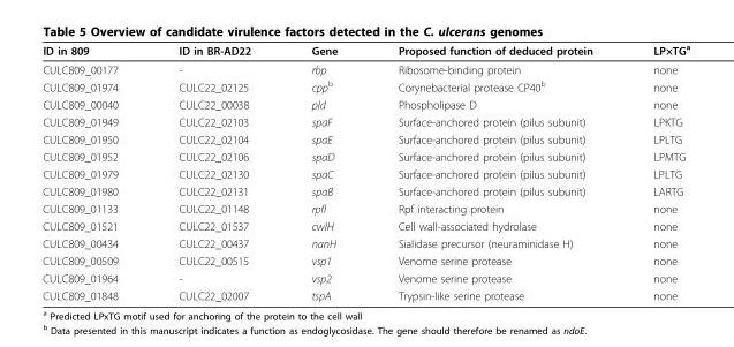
<table><thead><tr><td>ID in 809</td><td>ID in BR-AD22</td><td>Gene</td><td>Proposed function of deduced protein</td><td>LP×TG<sup>a</sup></td></tr></thead><tbody><tr><td>CULC809_00177</td><td>-</td><td>rbp</td><td>Ribosome-binding protein</td><td>none</td></tr><tr><td>CULC809_01974</td><td>CULC22_02125</td><td>cpp<sup>b</sup></td><td>Corynebacterial protease CP40<sup>b</sup></td><td>none</td></tr><tr><td>CULC809_00040</td><td>CULC22_00038</td><td>pld</td><td>Phospholipase D</td><td>none</td></tr><tr><td>CULC809_01949</td><td>CULC22_02103</td><td>spaF</td><td>Surface-anchored protein (pilus subunit)</td><td>LPKTG</td></tr><tr><td>CULC809_01950</td><td>CULC22_02104</td><td>spaE</td><td>Surface-anchored protein (pilus subunit)</td><td>LPLTG</td></tr><tr><td>CULC809_01952</td><td>CULC22_02106</td><td>spaD</td><td>Surface-anchored protein (pilus subunit)</td><td>LPMTG</td></tr><tr><td>CULC809_01979</td><td>CULC22_02130</td><td>spaC</td><td>Surface-anchored protein (pilus subunit)</td><td>LPLTG</td></tr><tr><td>CULC809_01980</td><td>CULC22_02131</td><td>spaB</td><td>Surface-anchored protein (pilus subunit)</td><td>LARTG</td></tr><tr><td>CULC809_01133</td><td>CULC22_01148</td><td>rpfI</td><td>Rpf interacting protein</td><td>none</td></tr><tr><td>CULC809_01521</td><td>CULC22_01537</td><td>cwlH</td><td>Cell wall-associated hydrolase</td><td>none</td></tr><tr><td>CULC809_00434</td><td>CULC22_00437</td><td>nanH</td><td>Sialidase precursor (neuraminidase H)</td><td>none</td></tr><tr><td>CULC809_00509</td><td>CULC22_00515</td><td>vsp1</td><td>Venome serine protease</td><td>none</td></tr><tr><td>CULC809_01964</td><td>-</td><td>vsp2</td><td>Venome serine protease</td><td>none</td></tr><tr><td>CULC809_01848</td><td>CULC22_02007</td><td>tspA</td><td>Trypsin-like serine protease</td><td>none</td></tr></tbody></table>